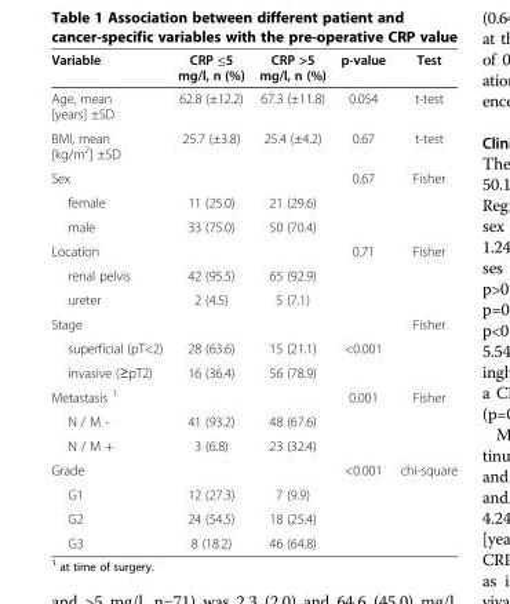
<table><thead><tr><td>Variable</td><td>CRP ≤5 mg/l, n (%)</td><td>CRP &gt;5 mg/l, n (%)</td><td>p-value</td><td>Test</td></tr></thead><tbody><tr><td>Age, mean [years] ±SD</td><td>62.8 (±12.2)</td><td>67.3 (±11.8)</td><td>0.054</td><td>t-test</td></tr><tr><td>BMI, mean [kg/m<sup>2</sup>] ±SD</td><td>25.7 (±3.8)</td><td>25.4 (±4.2)</td><td>0.67</td><td>t-test</td></tr><tr><td>Sex</td><td></td><td></td><td>0.67</td><td>Fisher</td></tr><tr><td>female</td><td>11 (25.0)</td><td>21 (29.6)</td><td></td><td></td></tr><tr><td>male</td><td>33 (75.0)</td><td>50 (70.4)</td><td></td><td></td></tr><tr><td>Location</td><td></td><td></td><td>0.71</td><td>Fisher</td></tr><tr><td>renal pelvis</td><td>42 (95.5)</td><td>65 (92.9)</td><td></td><td></td></tr><tr><td>ureter</td><td>2 (4.5)</td><td>5 (7.1)</td><td></td><td></td></tr><tr><td>Stage</td><td></td><td></td><td></td><td>Fisher</td></tr><tr><td>superficial (pT&lt;2)</td><td>28 (63.6)</td><td>15 (21.1)</td><td>&lt;0.001</td><td></td></tr><tr><td>invasive (≥pT2)</td><td>16 (36.4)</td><td>56 (78.9)</td><td></td><td></td></tr><tr><td>Metastasis <sup>1</sup></td><td></td><td></td><td>0.001</td><td>Fisher</td></tr><tr><td>N / M -</td><td>41 (93.2)</td><td>48 (67.6)</td><td></td><td></td></tr><tr><td>N / M +</td><td>3 (6.8)</td><td>23 (32.4)</td><td></td><td></td></tr><tr><td>Grade</td><td></td><td></td><td>&lt;0.001</td><td>chi-square</td></tr><tr><td>G1</td><td>12 (27.3)</td><td>7 (9.9)</td><td></td><td></td></tr><tr><td>G2</td><td>24 (54.5)</td><td>18 (25.4)</td><td></td><td></td></tr><tr><td>G3</td><td>8 (18.2)</td><td>46 (64.8)</td><td></td><td></td></tr></tbody></table>